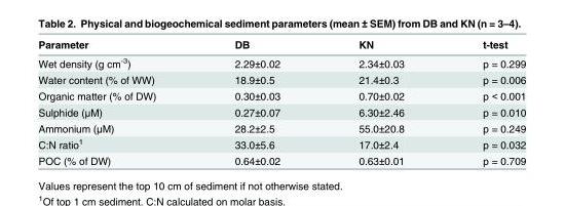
<table><thead><tr><td>Parameter</td><td>DB</td><td>KN</td><td>t-test</td></tr></thead><tbody><tr><td>Wet density (g cm<sup>-3</sup>)</td><td>2.29±0.02</td><td>2.34±0.03</td><td>p = 0.299</td></tr><tr><td>Water content (% of WW)</td><td>18.9±0.5</td><td>21.4±0.3</td><td>p = 0.006</td></tr><tr><td>Organic matter (% of DW)</td><td>0.30±0.03</td><td>0.70±0.02</td><td>p &lt; 0.001</td></tr><tr><td>Sulphide (μM)</td><td>0.27±0.07</td><td>6.30±2.46</td><td>p = 0.010</td></tr><tr><td>Ammonium (μM)</td><td>28.2±2.5</td><td>55.0±20.8</td><td>p = 0.249</td></tr><tr><td>C:N ratio<sup>1</sup></td><td>33.0±5.6</td><td>17.0±2.4</td><td>p = 0.032</td></tr><tr><td>POC (% of DW)</td><td>0.64±0.02</td><td>0.63±0.01</td><td>p = 0.709</td></tr></tbody></table>